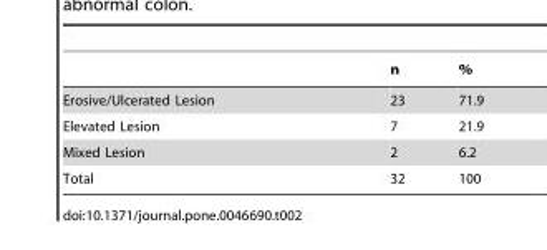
<table><thead><tr><td></td><td>n</td><td>%</td></tr></thead><tbody><tr><td>Erosive/Ulcerated Lesion</td><td>23</td><td>71.9</td></tr><tr><td>Elevated Lesion</td><td>7</td><td>21.9</td></tr><tr><td>Mixed Lesion</td><td>2</td><td>6.2</td></tr><tr><td>Total</td><td>32</td><td>100</td></tr></tbody></table>